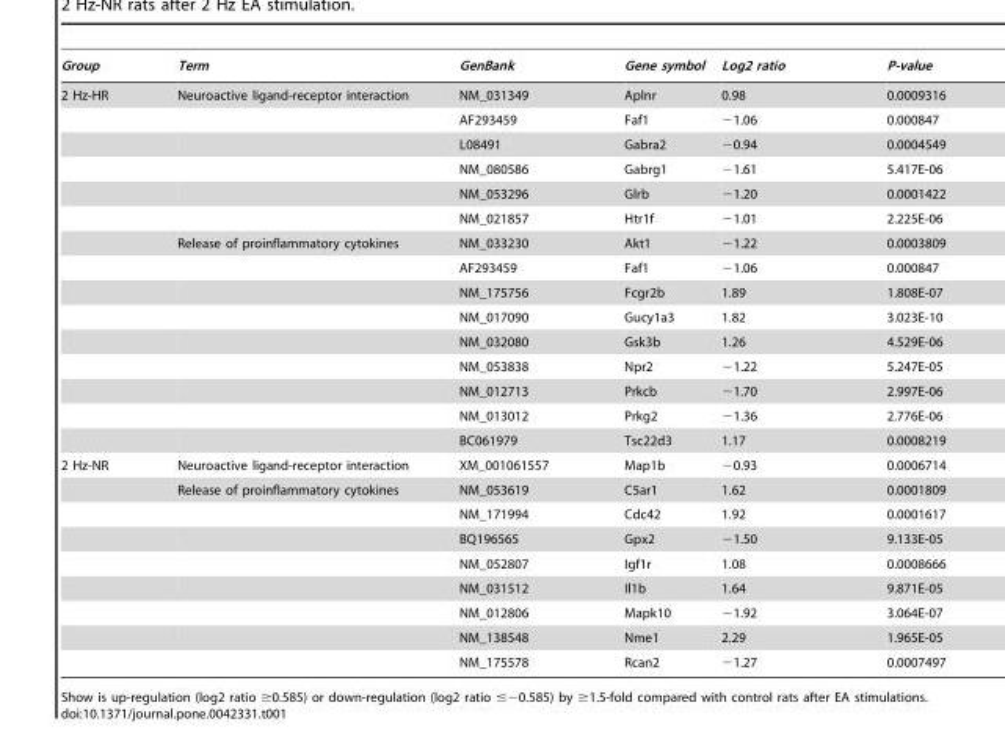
<table><thead><tr><td>Group</td><td>Term</td><td>GenBank</td><td>Gene symbol</td><td>Log2 ratio</td><td>P-value</td></tr></thead><tbody><tr><td rowspan="15">2 Hz-HR</td><td>Neuroactive ligand-receptor interaction</td><td>NM_031349</td><td>Aplnr</td><td>0.98</td><td>0.0009316</td></tr><tr><td></td><td>AF293459</td><td>Faf1</td><td>−1.06</td><td>0.000847</td></tr><tr><td></td><td>L08491</td><td>Gabra2</td><td>−0.94</td><td>0.0004549</td></tr><tr><td></td><td>NM_080586</td><td>Gabrg1</td><td>−1.61</td><td>5.417E-06</td></tr><tr><td></td><td>NM_053296</td><td>Glrb</td><td>−1.20</td><td>0.0001422</td></tr><tr><td></td><td>NM_021857</td><td>Htr1f</td><td>−1.01</td><td>2.225E-06</td></tr><tr><td>Release of proinflammatory cytokines</td><td>NM_033230</td><td>Akt1</td><td>−1.22</td><td>0.0003809</td></tr><tr><td></td><td>AF293459</td><td>Faf1</td><td>−1.06</td><td>0.000847</td></tr><tr><td></td><td>NM_175756</td><td>Fcgr2b</td><td>1.89</td><td>1.808E-07</td></tr><tr><td></td><td>NM_017090</td><td>Gucy1a3</td><td>1.82</td><td>3.023E-10</td></tr><tr><td></td><td>NM_032080</td><td>Gsk3b</td><td>1.26</td><td>4.529E-06</td></tr><tr><td></td><td>NM_053838</td><td>Npr2</td><td>−1.22</td><td>5.247E-05</td></tr><tr><td></td><td>NM_012713</td><td>Prkcb</td><td>−1.70</td><td>2.997E-06</td></tr><tr><td></td><td>NM_013012</td><td>Prkg2</td><td>−1.36</td><td>2.776E-06</td></tr><tr><td></td><td>BC061979</td><td>Tsc22d3</td><td>1.17</td><td>0.0008219</td></tr><tr><td rowspan="9">2 Hz-NR</td><td>Neuroactive ligand-receptor interaction</td><td>XM_001061557</td><td>Map1b</td><td>−0.93</td><td>0.0006714</td></tr><tr><td>Release of proinflammatory cytokines</td><td>NM_053619</td><td>C5ar1</td><td>1.62</td><td>0.0001809</td></tr><tr><td></td><td>NM_171994</td><td>Cdc42</td><td>1.92</td><td>0.0001617</td></tr><tr><td></td><td>BQ196565</td><td>Gpx2</td><td>−1.50</td><td>9.133E-05</td></tr><tr><td></td><td>NM_052807</td><td>Igf1r</td><td>1.08</td><td>0.0008666</td></tr><tr><td></td><td>NM_031512</td><td>Il1b</td><td>1.64</td><td>9.871E-05</td></tr><tr><td></td><td>NM_012806</td><td>Mapk10</td><td>−1.92</td><td>3.064E-07</td></tr><tr><td></td><td>NM_138548</td><td>Nme1</td><td>2.29</td><td>1.965E-05</td></tr><tr><td></td><td>NM_175578</td><td>Rcan2</td><td>−1.27</td><td>0.0007497</td></tr></tbody></table>